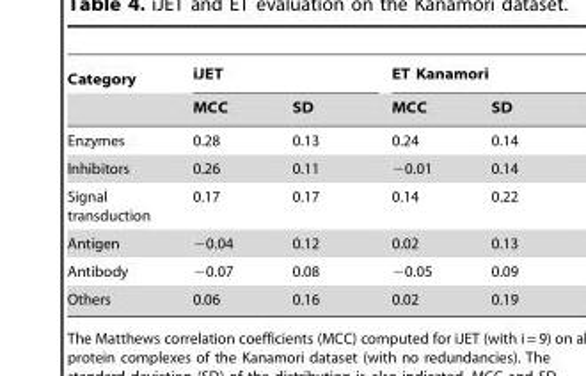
<table><thead><tr><td rowspan="2">Category</td><td colspan="2">iJET</td><td colspan="2">ET Kanamori</td></tr><tr><td>MCC</td><td>SD</td><td>MCC</td><td>SD</td></tr></thead><tbody><tr><td>Enzymes</td><td>0.28</td><td>0.13</td><td>0.24</td><td>0.14</td></tr><tr><td>Inhibitors</td><td>0.26</td><td>0.11</td><td>−0.01</td><td>0.14</td></tr><tr><td>Signal transduction</td><td>0.17</td><td>0.17</td><td>0.14</td><td>0.22</td></tr><tr><td>Antigen</td><td>−0.04</td><td>0.12</td><td>0.02</td><td>0.13</td></tr><tr><td>Antibody</td><td>−0.07</td><td>0.08</td><td>−0.05</td><td>0.09</td></tr><tr><td>Others</td><td>0.06</td><td>0.16</td><td>0.02</td><td>0.19</td></tr></tbody></table>